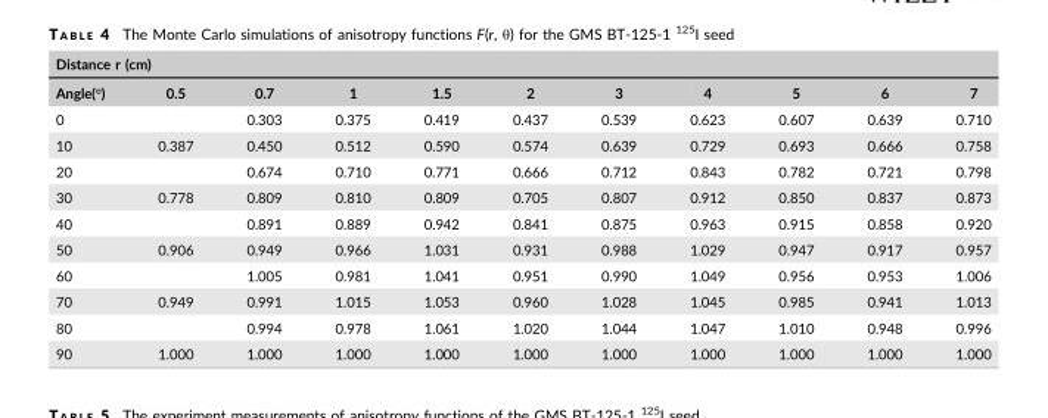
<table><thead><tr><td colspan="11">Distance r (cm)</td></tr><tr><td>Angle(°)</td><td>0.5</td><td>0.7</td><td>1</td><td>1.5</td><td>2</td><td>3</td><td>4</td><td>5</td><td>6</td><td>7</td></tr></thead><tbody><tr><td>0</td><td></td><td>0.303</td><td>0.375</td><td>0.419</td><td>0.437</td><td>0.539</td><td>0.623</td><td>0.607</td><td>0.639</td><td>0.710</td></tr><tr><td>10</td><td>0.387</td><td>0.450</td><td>0.512</td><td>0.590</td><td>0.574</td><td>0.639</td><td>0.729</td><td>0.693</td><td>0.666</td><td>0.758</td></tr><tr><td>20</td><td></td><td>0.674</td><td>0.710</td><td>0.771</td><td>0.666</td><td>0.712</td><td>0.843</td><td>0.782</td><td>0.721</td><td>0.798</td></tr><tr><td>30</td><td>0.778</td><td>0.809</td><td>0.810</td><td>0.809</td><td>0.705</td><td>0.807</td><td>0.912</td><td>0.850</td><td>0.837</td><td>0.873</td></tr><tr><td>40</td><td></td><td>0.891</td><td>0.889</td><td>0.942</td><td>0.841</td><td>0.875</td><td>0.963</td><td>0.915</td><td>0.858</td><td>0.920</td></tr><tr><td>50</td><td>0.906</td><td>0.949</td><td>0.966</td><td>1.031</td><td>0.931</td><td>0.988</td><td>1.029</td><td>0.947</td><td>0.917</td><td>0.957</td></tr><tr><td>60</td><td></td><td>1.005</td><td>0.981</td><td>1.041</td><td>0.951</td><td>0.990</td><td>1.049</td><td>0.956</td><td>0.953</td><td>1.006</td></tr><tr><td>70</td><td>0.949</td><td>0.991</td><td>1.015</td><td>1.053</td><td>0.960</td><td>1.028</td><td>1.045</td><td>0.985</td><td>0.941</td><td>1.013</td></tr><tr><td>80</td><td></td><td>0.994</td><td>0.978</td><td>1.061</td><td>1.020</td><td>1.044</td><td>1.047</td><td>1.010</td><td>0.948</td><td>0.996</td></tr><tr><td>90</td><td>1.000</td><td>1.000</td><td>1.000</td><td>1.000</td><td>1.000</td><td>1.000</td><td>1.000</td><td>1.000</td><td>1.000</td><td>1.000</td></tr></tbody></table>